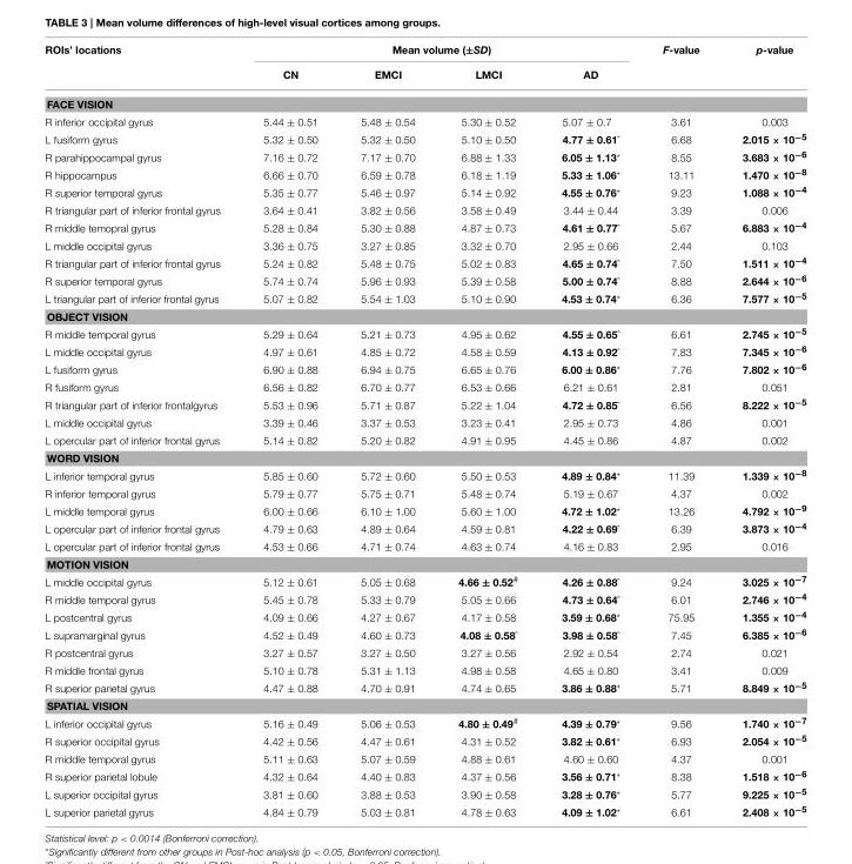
<table><thead><tr><td rowspan="2">ROIs’ locations</td><td colspan="4">Mean volume (±SD)</td><td rowspan="2">F-value</td><td rowspan="2">p-value</td></tr><tr><td>CN</td><td>EMCI</td><td>LMCI</td><td>AD</td></tr></thead><tbody><tr><td colspan="7">FACE VISION</td></tr><tr><td>R inferior occipital gyrus</td><td>5.44 ± 0.51</td><td>5.48 ± 0.54</td><td>5.30 ± 0.52</td><td>5.07 ± 0.7</td><td>3.61</td><td>0.003</td></tr><tr><td>L fusiform gyrus</td><td>5.32 ± 0.50</td><td>5.32 ± 0.50</td><td>5.10 ± 0.50</td><td>4.77 ± 0.61ˆ</td><td>6.68</td><td>2.015 × 10<sup>−5</sup></td></tr><tr><td>R parahippocampal gyrus</td><td>7.16 ± 0.72</td><td>7.17 ± 0.70</td><td>6.88 ± 1.33</td><td>6.05 ± 1.13*</td><td>8.55</td><td>3.683 × 10<sup>−6</sup></td></tr><tr><td>R hippocampus</td><td>6.66 ± 0.70</td><td>6.59 ± 0.78</td><td>6.18 ± 1.19</td><td>5.33 ± 1.06*</td><td>13.11</td><td>1.470 × 10<sup>−8</sup></td></tr><tr><td>R superior temporal gyrus</td><td>5.35 ± 0.77</td><td>5.46 ± 0.97</td><td>5.14 ± 0.92</td><td>4.55 ± 0.76*</td><td>9.23</td><td>1.088 × 10<sup>−4</sup></td></tr><tr><td>R triangular part of inferior frontal gyrus</td><td>3.64 ± 0.41</td><td>3.82 ± 0.56</td><td>3.58 ± 0.49</td><td>3.44 ± 0.44</td><td>3.39</td><td>0.006</td></tr><tr><td>R middle temopral gyrus</td><td>5.28 ± 0.84</td><td>5.30 ± 0.88</td><td>4.87 ± 0.73</td><td>4.61 ± 0.77ˆ</td><td>5.67</td><td>6.883 × 10<sup>−4</sup></td></tr><tr><td>L middle occipital gyrus</td><td>3.36 ± 0.75</td><td>3.27 ± 0.85</td><td>3.32 ± 0.70</td><td>2.95 ± 0.66</td><td>2.44</td><td>0.103</td></tr><tr><td>R triangular part of inferior frontal gyrus</td><td>5.24 ± 0.82</td><td>5.48 ± 0.75</td><td>5.02 ± 0.83</td><td>4.65 ± 0.74ˆ</td><td>7.50</td><td>1.511 × 10<sup>−4</sup></td></tr><tr><td>R superior temporal gyrus</td><td>5.74 ± 0.74</td><td>5.96 ± 0.93</td><td>5.39 ± 0.58</td><td>5.00 ± 0.74ˆ</td><td>8.88</td><td>2.644 × 10<sup>−6</sup></td></tr><tr><td>L triangular part of inferior frontal gyrus</td><td>5.07 ± 0.82</td><td>5.54 ± 1.03</td><td>5.10 ± 0.90</td><td>4.53 ± 0.74*</td><td>6.36</td><td>7.577 × 10<sup>−5</sup></td></tr><tr><td colspan="7">OBJECT VISION</td></tr><tr><td>R middle temporal gyrus</td><td>5.29 ± 0.64</td><td>5.21 ± 0.73</td><td>4.95 ± 0.62</td><td>4.55 ± 0.65ˆ</td><td>6.61</td><td>2.745 × 10<sup>−5</sup></td></tr><tr><td>L middle occipital gyrus</td><td>4.97 ± 0.61</td><td>4.85 ± 0.72</td><td>4.58 ± 0.59</td><td>4.13 ± 0.92ˆ</td><td>7.83</td><td>7.345 × 10<sup>−6</sup></td></tr><tr><td>L fusiform gyrus</td><td>6.90 ± 0.88</td><td>6.94 ± 0.75</td><td>6.65 ± 0.76</td><td>6.00 ± 0.86*</td><td>7.76</td><td>7.802 × 10<sup>−6</sup></td></tr><tr><td>R fusiform gyrus</td><td>6.56 ± 0.82</td><td>6.70 ± 0.77</td><td>6.53 ± 0.66</td><td>6.21 ± 0.61</td><td>2.81</td><td>0.051</td></tr><tr><td>R triangular part of inferior frontalgyrus</td><td>5.53 ± 0.96</td><td>5.71 ± 0.87</td><td>5.22 ± 1.04</td><td>4.72 ± 0.85ˆ</td><td>6.56</td><td>8.222 × 10<sup>−5</sup></td></tr><tr><td>L middle occipital gyrus</td><td>3.39 ± 0.46</td><td>3.37 ± 0.53</td><td>3.23 ± 0.41</td><td>2.95 ± 0.73</td><td>4.86</td><td>0.001</td></tr><tr><td>L opercular part of inferior frontal gyrus</td><td>5.14 ± 0.82</td><td>5.20 ± 0.82</td><td>4.91 ± 0.95</td><td>4.45 ± 0.86</td><td>4.87</td><td>0.002</td></tr><tr><td colspan="7">WORD VISION</td></tr><tr><td>L inferior temporal gyrus</td><td>5.85 ± 0.60</td><td>5.72 ± 0.60</td><td>5.50 ± 0.53</td><td>4.89 ± 0.84*</td><td>11.39</td><td>1.339 × 10<sup>−8</sup></td></tr><tr><td>R inferior temporal gyrus</td><td>5.79 ± 0.77</td><td>5.75 ± 0.71</td><td>5.48 ± 0.74</td><td>5.19 ± 0.67</td><td>4.37</td><td>0.002</td></tr><tr><td>L middle temporal gyrus</td><td>6.00 ± 0.66</td><td>6.10 ± 1.00</td><td>5.60 ± 1.00</td><td>4.72 ± 1.02*</td><td>13.26</td><td>4.792 × 10<sup>−9</sup></td></tr><tr><td>L opercular part of inferior frontal gyrus</td><td>4.79 ± 0.63</td><td>4.89 ± 0.64</td><td>4.59 ± 0.81</td><td>4.22 ± 0.69ˆ</td><td>6.39</td><td>3.873 × 10<sup>−4</sup></td></tr><tr><td>L opercular part of inferior frontal gyrus</td><td>4.53 ± 0.66</td><td>4.71 ± 0.74</td><td>4.63 ± 0.74</td><td>4.16 ± 0.83</td><td>2.95</td><td>0.016</td></tr><tr><td colspan="7">MOTION VISION</td></tr><tr><td>L middle occipital gyrus</td><td>5.12 ± 0.61</td><td>5.05 ± 0.68</td><td>4.66 ± 0.52<sup>#</sup></td><td>4.26 ± 0.88ˆ</td><td>9.24</td><td>3.025 × 10<sup>−7</sup></td></tr><tr><td>R middle temporal gyrus</td><td>5.45 ± 0.78</td><td>5.33 ± 0.79</td><td>5.05 ± 0.66</td><td>4.73 ± 0.64ˆ</td><td>6.01</td><td>2.746 × 10<sup>−4</sup></td></tr><tr><td>L postcentral gyrus</td><td>4.09 ± 0.66</td><td>4.27 ± 0.67</td><td>4.17 ± 0.58</td><td>3.59 ± 0.68*</td><td>75.95</td><td>1.355 × 10<sup>−4</sup></td></tr><tr><td>L supramarginal gyrus</td><td>4.52 ± 0.49</td><td>4.60 ± 0.73</td><td>4.08 ± 0.58ˆ</td><td>3.98 ± 0.58ˆ</td><td>7.45</td><td>6.385 × 10<sup>−6</sup></td></tr><tr><td>R postcentral gyrus</td><td>3.27 ± 0.57</td><td>3.27 ± 0.50</td><td>3.27 ± 0.56</td><td>2.92 ± 0.54</td><td>2.74</td><td>0.021</td></tr><tr><td>R middle frontal gyrus</td><td>5.10 ± 0.78</td><td>5.31 ± 1.13</td><td>4.98 ± 0.58</td><td>4.65 ± 0.80</td><td>3.41</td><td>0.009</td></tr><tr><td>R superior parietal gyrus</td><td>4.47 ± 0.88</td><td>4.70 ± 0.91</td><td>4.74 ± 0.65</td><td>3.86 ± 0.88*</td><td>5.71</td><td>8.849 × 10<sup>−5</sup></td></tr><tr><td colspan="7">SPATIAL VISION</td></tr><tr><td>L inferior occipital gyrus</td><td>5.16 ± 0.49</td><td>5.06 ± 0.53</td><td>4.80 ± 0.49<sup>#</sup></td><td>4.39 ± 0.79*</td><td>9.56</td><td>1.740 × 10<sup>−7</sup></td></tr><tr><td>R superior occipital gyrus</td><td>4.42 ± 0.56</td><td>4.47 ± 0.61</td><td>4.31 ± 0.52</td><td>3.82 ± 0.61*</td><td>6.93</td><td>2.054 × 10<sup>−5</sup></td></tr><tr><td>R middle temporal gyrus</td><td>5.11 ± 0.63</td><td>5.07 ± 0.59</td><td>4.88 ± 0.61</td><td>4.60 ± 0.60</td><td>4.37</td><td>0.001</td></tr><tr><td>R superior parietal lobule</td><td>4.32 ± 0.64</td><td>4.40 ± 0.83</td><td>4.37 ± 0.56</td><td>3.56 ± 0.71*</td><td>8.38</td><td>1.518 × 10<sup>−6</sup></td></tr><tr><td>L superior occipital gyrus</td><td>3.81 ± 0.60</td><td>3.88 ± 0.53</td><td>3.90 ± 0.58</td><td>3.28 ± 0.76*</td><td>5.77</td><td>9.225 × 10<sup>−5</sup></td></tr><tr><td>L superior parietal gyrus</td><td>4.84 ± 0.79</td><td>5.03 ± 0.81</td><td>4.78 ± 0.63</td><td>4.09 ± 1.02*</td><td>6.61</td><td>2.408 × 10<sup>−5</sup></td></tr></tbody></table>